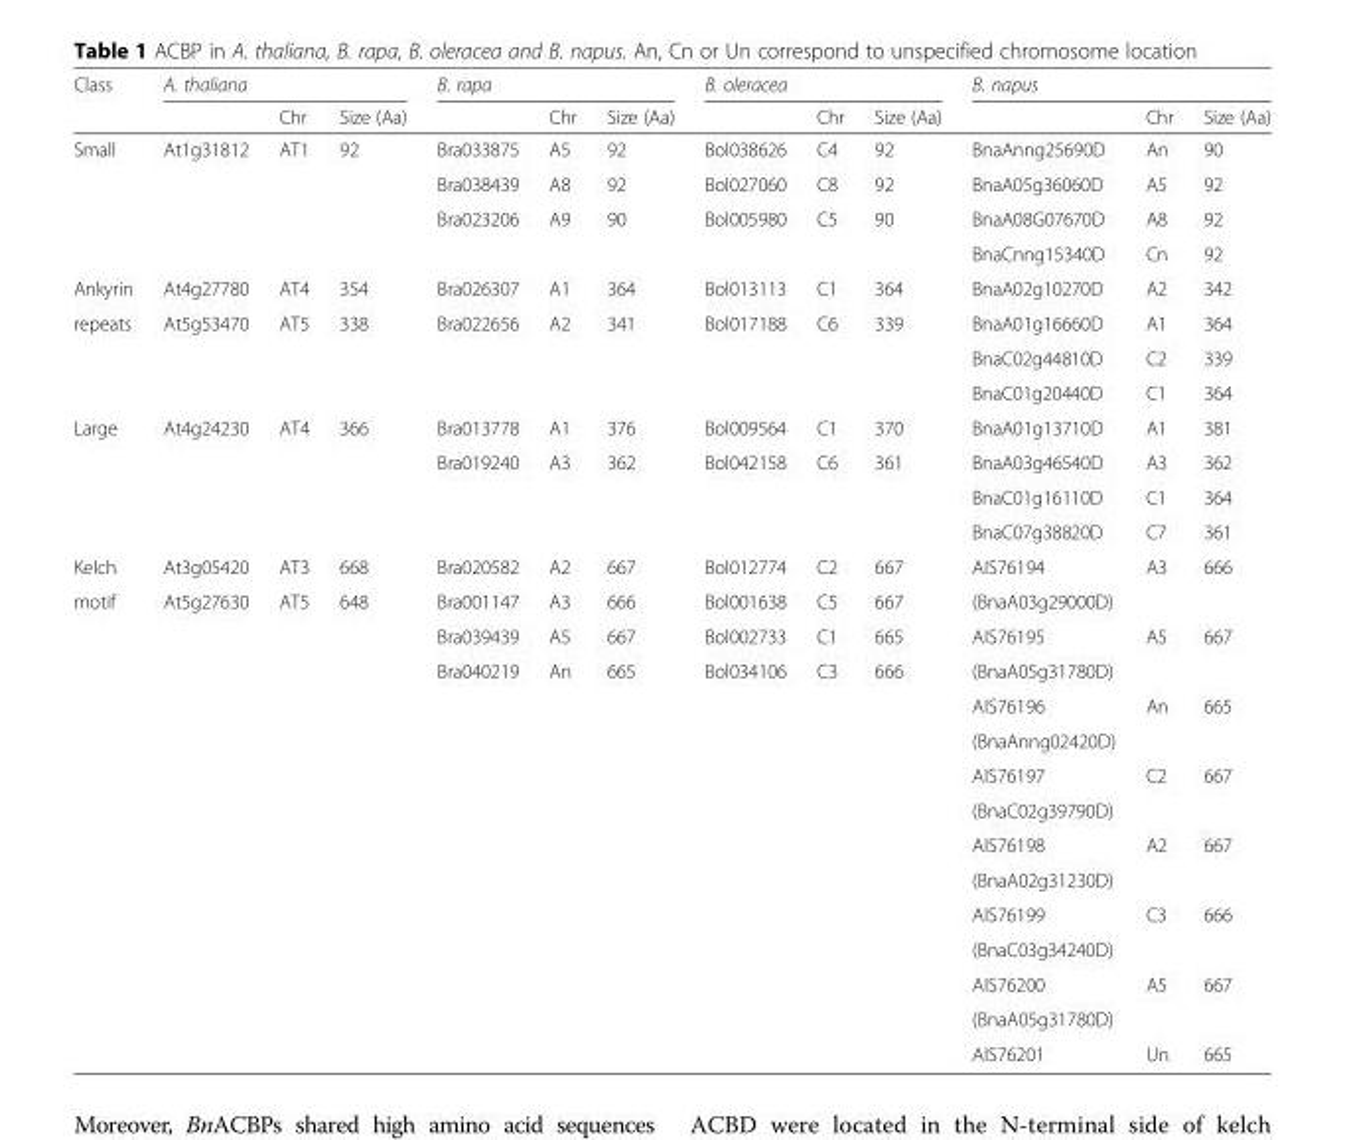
<table><thead><tr><td rowspan="2">Class</td><td colspan="3">A. thaliana</td><td colspan="3">B. rapa</td><td colspan="3">B. oleracea</td><td colspan="3">B. napus</td></tr><tr><td></td><td>Chr</td><td>Size (Aa)</td><td></td><td>Chr</td><td>Size (Aa)</td><td></td><td>Chr</td><td>Size (Aa)</td><td></td><td>Chr</td><td>Size (Aa)</td></tr></thead><tbody><tr><td rowspan="4">Small</td><td>At1g31812</td><td>AT1</td><td>92</td><td>Bra033875</td><td>A5</td><td>92</td><td>Bol038626</td><td>C4</td><td>92</td><td>BnaAnng25690D</td><td>An</td><td>90</td></tr><tr><td></td><td></td><td></td><td>Bra038439</td><td>A8</td><td>92</td><td>Bol027060</td><td>C8</td><td>92</td><td>BnaA05g36060D</td><td>A5</td><td>92</td></tr><tr><td></td><td></td><td></td><td>Bra023206</td><td>A9</td><td>90</td><td>Bol005980</td><td>C5</td><td>90</td><td>BnaA08G07670D</td><td>A8</td><td>92</td></tr><tr><td></td><td></td><td></td><td></td><td></td><td></td><td></td><td></td><td></td><td>BnaCnng15340D</td><td>Cn</td><td>92</td></tr><tr><td>Ankyrin</td><td>At4g27780</td><td>AT4</td><td>354</td><td>Bra026307</td><td>A1</td><td>364</td><td>Bol013113</td><td>C1</td><td>364</td><td>BnaA02g10270D</td><td>A2</td><td>342</td></tr><tr><td rowspan="3">repeats</td><td>At5g53470</td><td>AT5</td><td>338</td><td>Bra022656</td><td>A2</td><td>341</td><td>Bol017188</td><td>C6</td><td>339</td><td>BnaA01g16660D</td><td>A1</td><td>364</td></tr><tr><td></td><td></td><td></td><td></td><td></td><td></td><td></td><td></td><td></td><td>BnaC02g44810D</td><td>C2</td><td>339</td></tr><tr><td></td><td></td><td></td><td></td><td></td><td></td><td></td><td></td><td></td><td>BnaC01g20440D</td><td>C1</td><td>364</td></tr><tr><td rowspan="4">Large</td><td>At4g24230</td><td>AT4</td><td>366</td><td>Bra013778</td><td>A1</td><td>376</td><td>Bol009564</td><td>C1</td><td>370</td><td>BnaA01g13710D</td><td>A1</td><td>381</td></tr><tr><td></td><td></td><td></td><td>Bra019240</td><td>A3</td><td>362</td><td>Bol042158</td><td>C6</td><td>361</td><td>BnaA03g46540D</td><td>A3</td><td>362</td></tr><tr><td></td><td></td><td></td><td></td><td></td><td></td><td></td><td></td><td></td><td>BnaC01g16110D</td><td>C1</td><td>364</td></tr><tr><td></td><td></td><td></td><td></td><td></td><td></td><td></td><td></td><td></td><td>BnaC07g38820D</td><td>C7</td><td>361</td></tr><tr><td>Kelch</td><td>At3g05420</td><td>AT3</td><td>668</td><td>Bra020582</td><td>A2</td><td>667</td><td>Bol012774</td><td>C2</td><td>667</td><td>AIS76194</td><td rowspan="2">A3</td><td rowspan="2">666</td></tr><tr><td rowspan="14">motif</td><td>At5g27630</td><td>AT5</td><td>648</td><td>Bra001147</td><td>A3</td><td>666</td><td>Bol001638</td><td>C5</td><td>667</td><td>(BnaA03g29000D)</td></tr><tr><td></td><td></td><td></td><td>Bra039439</td><td>A5</td><td>667</td><td>Bol002733</td><td>C1</td><td>665</td><td>AIS76195</td><td rowspan="2">A5</td><td rowspan="2">667</td></tr><tr><td></td><td></td><td></td><td>Bra040219</td><td>An</td><td>665</td><td>Bol034106</td><td>C3</td><td>666</td><td>(BnaA05g31780D)</td></tr><tr><td></td><td></td><td></td><td></td><td></td><td></td><td></td><td></td><td></td><td>AIS76196</td><td rowspan="2">An</td><td rowspan="2">665</td></tr><tr><td></td><td></td><td></td><td></td><td></td><td></td><td></td><td></td><td></td><td>(BnaAnng02420D)</td></tr><tr><td></td><td></td><td></td><td></td><td></td><td></td><td></td><td></td><td></td><td>AIS76197</td><td rowspan="2">C2</td><td rowspan="2">667</td></tr><tr><td></td><td></td><td></td><td></td><td></td><td></td><td></td><td></td><td></td><td>(BnaC02g39790D)</td></tr><tr><td></td><td></td><td></td><td></td><td></td><td></td><td></td><td></td><td></td><td>AIS76198</td><td rowspan="2">A2</td><td rowspan="2">667</td></tr><tr><td></td><td></td><td></td><td></td><td></td><td></td><td></td><td></td><td></td><td>(BnaA02g31230D)</td></tr><tr><td></td><td></td><td></td><td></td><td></td><td></td><td></td><td></td><td></td><td>AIS76199</td><td rowspan="2">C3</td><td rowspan="2">666</td></tr><tr><td></td><td></td><td></td><td></td><td></td><td></td><td></td><td></td><td></td><td>(BnaC03g34240D)</td></tr><tr><td></td><td></td><td></td><td></td><td></td><td></td><td></td><td></td><td></td><td>AIS76200</td><td rowspan="2">A5</td><td rowspan="2">667</td></tr><tr><td></td><td></td><td></td><td></td><td></td><td></td><td></td><td></td><td></td><td>(BnaA05g31780D)</td></tr><tr><td></td><td></td><td></td><td></td><td></td><td></td><td></td><td></td><td></td><td>AIS76201</td><td>Un</td><td>665</td></tr></tbody></table>